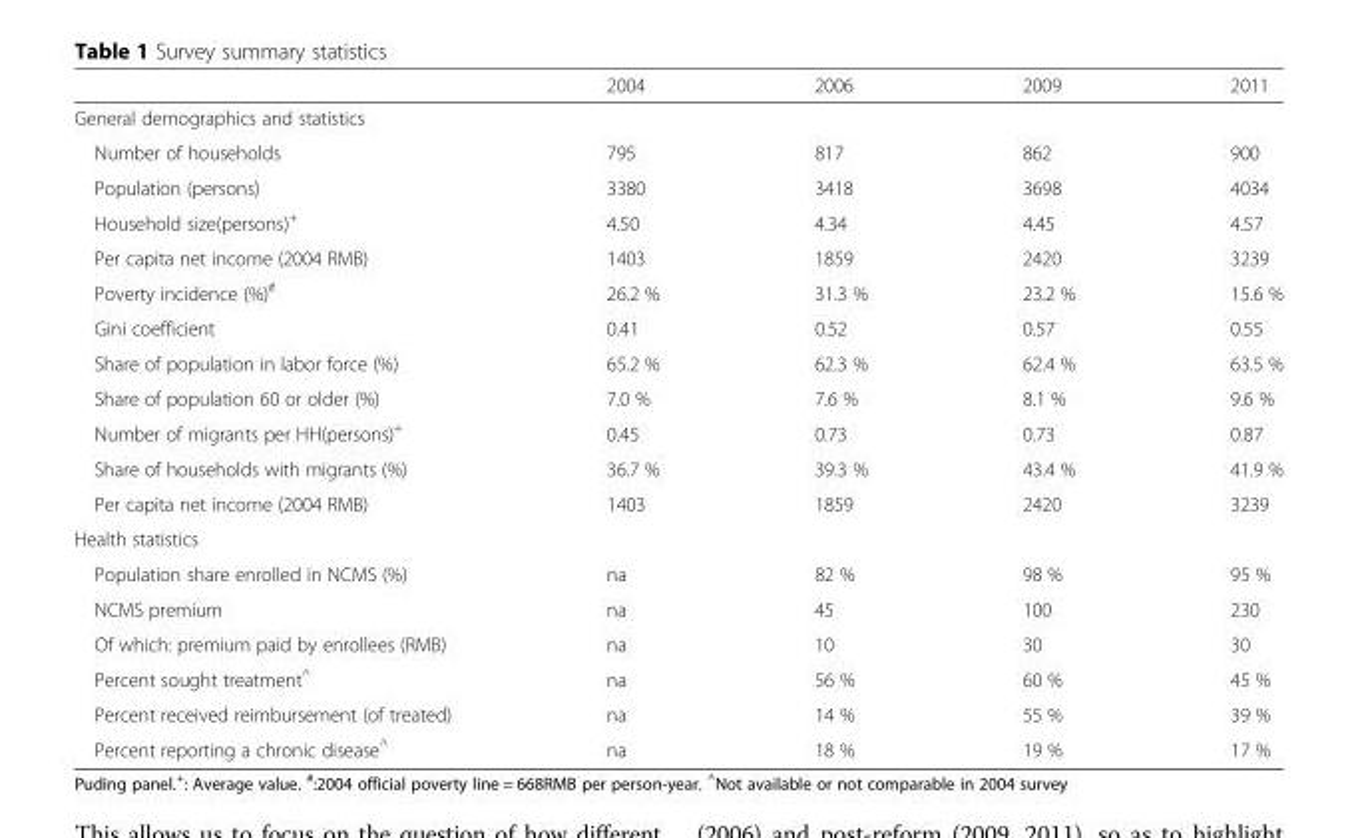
<table><thead><tr><td></td><td>2004</td><td>2006</td><td>2009</td><td>2011</td></tr></thead><tbody><tr><td colspan="5">General demographics and statistics</td></tr><tr><td>Number of households</td><td>795</td><td>817</td><td>862</td><td>900</td></tr><tr><td>Population (persons)</td><td>3380</td><td>3418</td><td>3698</td><td>4034</td></tr><tr><td>Household size(persons)<sup>+</sup></td><td>4.50</td><td>4.34</td><td>4.45</td><td>4.57</td></tr><tr><td>Per capita net income (2004 RMB)</td><td>1403</td><td>1859</td><td>2420</td><td>3239</td></tr><tr><td>Poverty incidence (%)<sup>#</sup></td><td>26.2 %</td><td>31.3 %</td><td>23.2 %</td><td>15.6 %</td></tr><tr><td>Gini coefficient</td><td>0.41</td><td>0.52</td><td>0.57</td><td>0.55</td></tr><tr><td>Share of population in labor force (%)</td><td>65.2 %</td><td>62.3 %</td><td>62.4 %</td><td>63.5 %</td></tr><tr><td>Share of population 60 or older (%)</td><td>7.0 %</td><td>7.6 %</td><td>8.1 %</td><td>9.6 %</td></tr><tr><td>Number of migrants per HH(persons)<sup>+</sup></td><td>0.45</td><td>0.73</td><td>0.73</td><td>0.87</td></tr><tr><td>Share of households with migrants (%)</td><td>36.7 %</td><td>39.3 %</td><td>43.4 %</td><td>41.9 %</td></tr><tr><td>Per capita net income (2004 RMB)</td><td>1403</td><td>1859</td><td>2420</td><td>3239</td></tr><tr><td colspan="5">Health statistics</td></tr><tr><td>Population share enrolled in NCMS (%)</td><td>na</td><td>82 %</td><td>98 %</td><td>95 %</td></tr><tr><td>NCMS premium</td><td>na</td><td>45</td><td>100</td><td>230</td></tr><tr><td>Of which: premium paid by enrollees (RMB)</td><td>na</td><td>10</td><td>30</td><td>30</td></tr><tr><td>Percent sought treatment^</td><td>na</td><td>56 %</td><td>60 %</td><td>45 %</td></tr><tr><td>Percent received reimbursement (of treated)</td><td>na</td><td>14 %</td><td>55 %</td><td>39 %</td></tr><tr><td>Percent reporting a chronic disease^</td><td>na</td><td>18 %</td><td>19 %</td><td>17 %</td></tr></tbody></table>